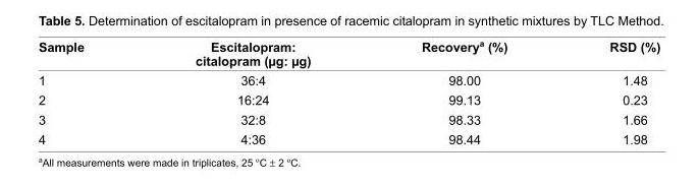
<table><thead><tr><td>Sample</td><td>Escitalopram: citalopram (μg: μg)</td><td>Recovery<sup>a</sup> (%)</td><td>RSD (%)</td></tr></thead><tbody><tr><td>1</td><td>36:4</td><td>98.00</td><td>1.48</td></tr><tr><td>2</td><td>16:24</td><td>99.13</td><td>0.23</td></tr><tr><td>3</td><td>32:8</td><td>98.33</td><td>1.66</td></tr><tr><td>4</td><td>4:36</td><td>98.44</td><td>1.98</td></tr></tbody></table>